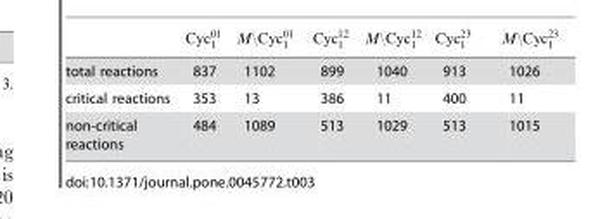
<table><tbody><tr><td>total reactions</td><td>837</td><td>1102</td><td>899</td><td>1040</td><td>913</td><td>1026</td></tr><tr><td>critical reactions</td><td>353</td><td>13</td><td>386</td><td>11</td><td>400</td><td>11</td></tr><tr><td>non-critical reactions</td><td>484</td><td>1089</td><td>513</td><td>1029</td><td>513</td><td>1015</td></tr></tbody></table>